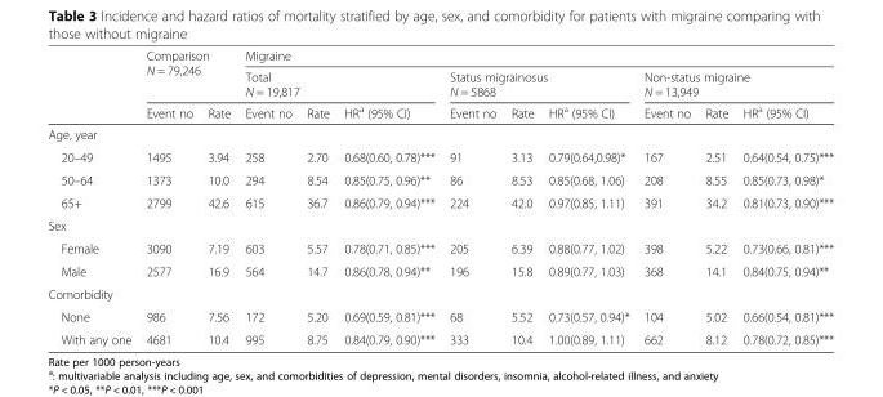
<table><thead><tr><td rowspan="3"></td><td rowspan="2" colspan="2">Comparison N = 79,246</td><td colspan="9">Migraine</td></tr><tr><td colspan="3">Total N = 19,817</td><td colspan="3">Status migrainosus N = 5868</td><td colspan="3">Non-status migraine N = 13,949</td></tr><tr><td>Event no</td><td>Rate</td><td>Event no</td><td>Rate</td><td>HR<sup>a</sup> (95% CI)</td><td>Event no</td><td>Rate</td><td>HR<sup>a</sup> (95% CI)</td><td>Event no</td><td>Rate</td><td>HR<sup>a</sup> (95% CI)</td></tr></thead><tbody><tr><td colspan="12">Age, year</td></tr><tr><td>20–49</td><td>1495</td><td>3.94</td><td>258</td><td>2.70</td><td>0.68(0.60, 0.78)***</td><td>91</td><td>3.13</td><td>0.79(0.64,0.98)*</td><td>167</td><td>2.51</td><td>0.64(0.54, 0.75)***</td></tr><tr><td>50–64</td><td>1373</td><td>10.0</td><td>294</td><td>8.54</td><td>0.85(0.75, 0.96)**</td><td>86</td><td>8.53</td><td>0.85(0.68, 1.06)</td><td>208</td><td>8.55</td><td>0.85(0.73, 0.98)*</td></tr><tr><td>65+</td><td>2799</td><td>42.6</td><td>615</td><td>36.7</td><td>0.86(0.79, 0.94)***</td><td>224</td><td>42.0</td><td>0.97(0.85, 1.11)</td><td>391</td><td>34.2</td><td>0.81(0.73, 0.90)***</td></tr><tr><td colspan="12">Sex</td></tr><tr><td>Female</td><td>3090</td><td>7.19</td><td>603</td><td>5.57</td><td>0.78(0.71, 0.85)***</td><td>205</td><td>6.39</td><td>0.88(0.77, 1.02)</td><td>398</td><td>5.22</td><td>0.73(0.66, 0.81)***</td></tr><tr><td>Male</td><td>2577</td><td>16.9</td><td>564</td><td>14.7</td><td>0.86(0.78, 0.94)**</td><td>196</td><td>15.8</td><td>0.89(0.77, 1.03)</td><td>368</td><td>14.1</td><td>0.84(0.75, 0.94)**</td></tr><tr><td colspan="12">Comorbidity</td></tr><tr><td>None</td><td>986</td><td>7.56</td><td>172</td><td>5.20</td><td>0.69(0.59, 0.81)***</td><td>68</td><td>5.52</td><td>0.73(0.57, 0.94)*</td><td>104</td><td>5.02</td><td>0.66(0.54, 0.81)***</td></tr><tr><td>With any one</td><td>4681</td><td>10.4</td><td>995</td><td>8.75</td><td>0.84(0.79, 0.90)***</td><td>333</td><td>10.4</td><td>1.00(0.89, 1.11)</td><td>662</td><td>8.12</td><td>0.78(0.72, 0.85)***</td></tr></tbody></table>